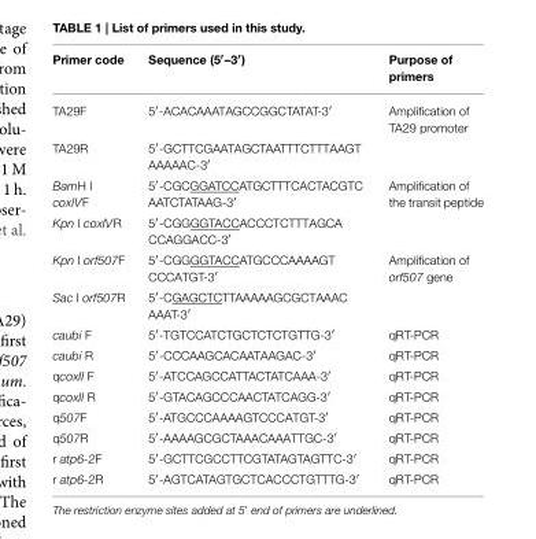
<table><thead><tr><td>Primer code</td><td>Sequence (5′–3′)</td><td>Purpose of primers</td></tr></thead><tbody><tr><td>TA29F</td><td>5′-ACACAAATAGCCGGCTATAT-3′</td><td>Amplification of TA29 promoter</td></tr><tr><td>TA29R</td><td>5′-GCTTCGAATAGCTAATTTCTTTAAGT AAAAAC-3′</td><td></td></tr><tr><td>BamH I coxIVF</td><td>5′-CGCGGATCCATGCTTTCACTACGTC AATCTATAAG-3′</td><td>Amplification of the transit peptide</td></tr><tr><td>Kpn I coxIVR</td><td>5′-CGGGGTACCACCCTCTTTAGCA CCAGGACC-3′</td><td></td></tr><tr><td>Kpn I orf507F</td><td>5′-CGGGGTACCATGCCCAAAAGT CCCATGT-3′</td><td>Amplification of orf507 gene</td></tr><tr><td>Sac I orf507R</td><td>5′-CGAGCTCTTAAAAAGCGCTAAAC AAAT-3′</td><td></td></tr><tr><td>caubi F</td><td>5′-TGTCCATCTGCTCTCTGTTG-3′</td><td>qRT-PCR</td></tr><tr><td>caubi R</td><td>5′-CCCAAGCACAATAAGAC-3′</td><td>qRT-PCR</td></tr><tr><td>qcoxII F</td><td>5′-ATCCAGCCATTACTATCAAA-3′</td><td>qRT-PCR</td></tr><tr><td>qcoxII R</td><td>5′-GTACAGCCCAACTATCAGG-3′</td><td>qRT-PCR</td></tr><tr><td>q507F</td><td>5′-ATGCCCAAAAGTCCCATGT-3′</td><td>qRT-PCR</td></tr><tr><td>q507R</td><td>5′-AAAAGCGCTAAACAAATTGC-3′</td><td>qRT-PCR</td></tr><tr><td>r atp6-2F</td><td>5′-GCTTCGCCTTCGTATAGTAGTTC-3′</td><td>qRT-PCR</td></tr><tr><td>r atp6-2R</td><td>5′-AGTCATAGTGCTCACCCTGTTTG-3′</td><td>qRT-PCR</td></tr></tbody></table>